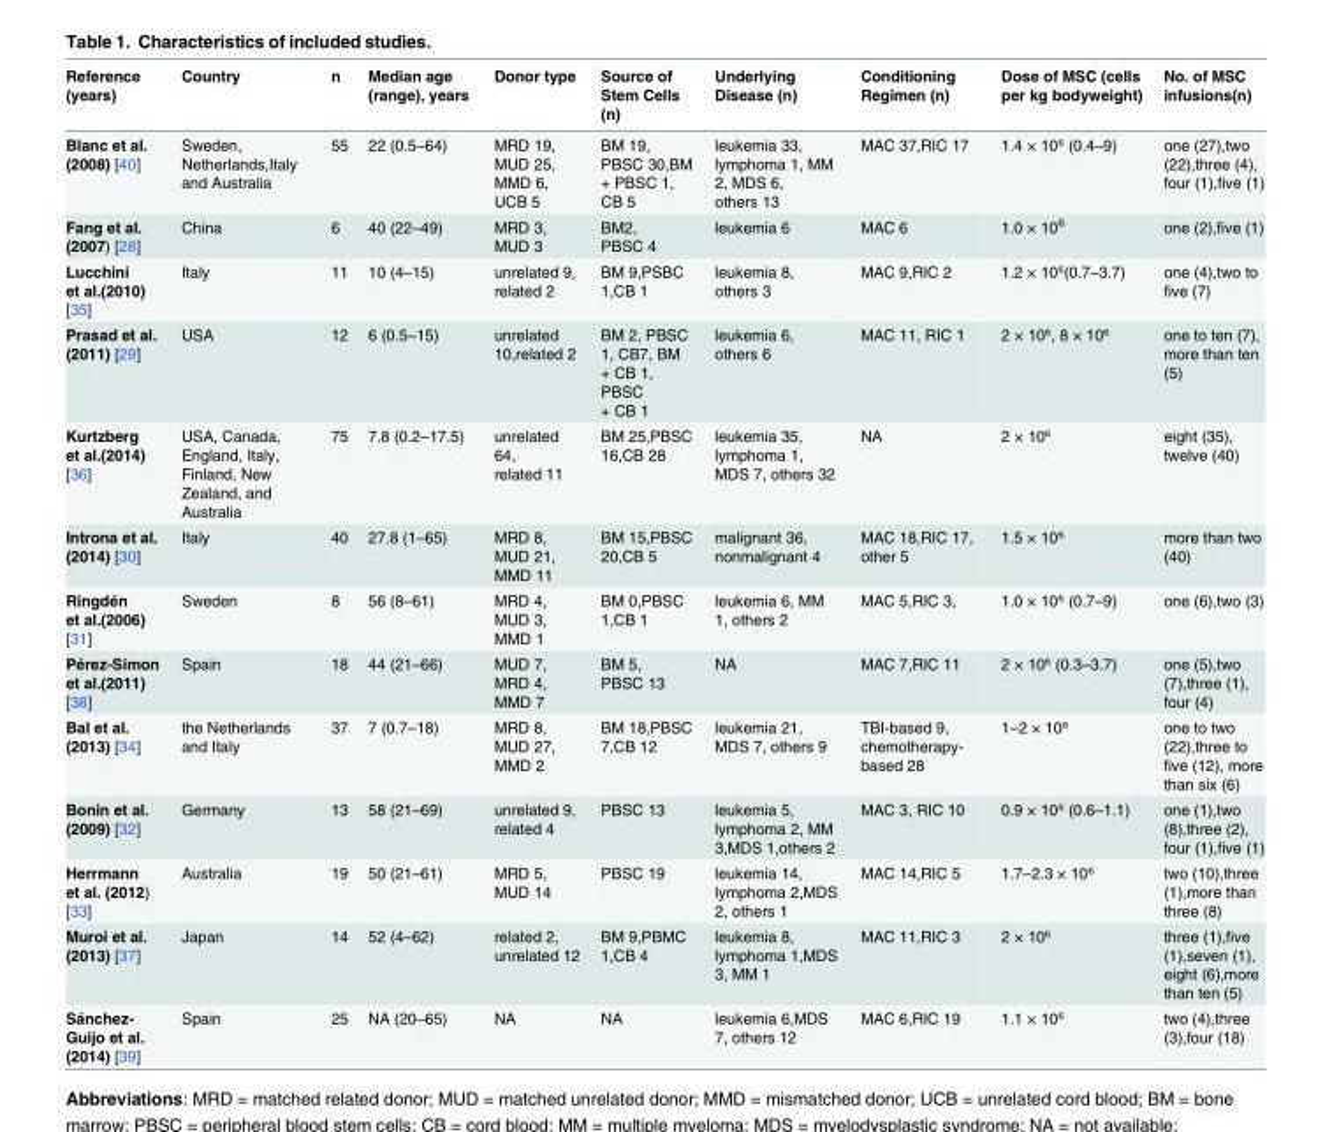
<table><thead><tr><td>Reference (years)</td><td>Country</td><td>n</td><td>Median age (range), years</td><td>Donor type</td><td>Source of Stem Cells (n)</td><td>Underlying Disease (n)</td><td>Conditioning Regimen (n)</td><td>Dose of MSC (cells per kg bodyweight)</td><td>No. of MSC infusions(n)</td></tr></thead><tbody><tr><td>Blanc et al. (2008) [40]</td><td>Sweden, Netherlands,Italy and Australia</td><td>55</td><td>22 (0.5–64)</td><td>MRD 19, MUD 25, MMD 6, UCB 5</td><td>BM 19, PBSC 30,BM + PBSC 1, CB 5</td><td>leukemia 33, lymphoma 1, MM 2, MDS 6, others 13</td><td>MAC 37,RIC 17</td><td>1.4 × 10⁶ (0.4–9)</td><td>one (27),two (22),three (4), four (1),five (1)</td></tr><tr><td>Fang et al. (2007) [28]</td><td>China</td><td>6</td><td>40 (22–49)</td><td>MRD 3, MUD 3</td><td>BM2, PBSC 4</td><td>leukemia 6</td><td>MAC 6</td><td>1.0 × 10<sup>6</sup></td><td>one (2),five (1)</td></tr><tr><td>Lucchini et al.(2010) [35]</td><td>Italy</td><td>11</td><td>10 (4–15)</td><td>unrelated 9, related 2</td><td>BM 9,PSBC 1,CB 1</td><td>leukemia 8, others 3</td><td>MAC 9,RIC 2</td><td>1.2 × 10⁶(0.7–3.7)</td><td>one (4),two to five (7)</td></tr><tr><td>Prasad et al. (2011) [29]</td><td>USA</td><td>12</td><td>6 (0.5–15)</td><td>unrelated 10,related 2</td><td>BM 2, PBSC 1, CB7, BM + CB 1, PBSC + CB 1</td><td>leukemia 6, others 6</td><td>MAC 11, RIC 1</td><td>2 × 10⁶, 8 × 10⁶</td><td>one to ten (7), more than ten (5)</td></tr><tr><td>Kurtzberg et al.(2014) [36]</td><td>USA, Canada, England, Italy, Finland, New Zealand, and Australia</td><td>75</td><td>7.8 (0.2–17.5)</td><td>unrelated 64, related 11</td><td>BM 25,PBSC 16,CB 28</td><td>leukemia 35, lymphoma 1, MDS 7, others 32</td><td>NA</td><td>2 × 10⁶</td><td>eight (35), twelve (40)</td></tr><tr><td>Introna et al. (2014) [30]</td><td>Italy</td><td>40</td><td>27.8 (1–65)</td><td>MRD 8, MUD 21, MMD 11</td><td>BM 15,PBSC 20,CB 5</td><td>malignant 36, nonmalignant 4</td><td>MAC 18,RIC 17, other 5</td><td>1.5 × 10⁶</td><td>more than two (40)</td></tr><tr><td>Ringdén et al.(2006) [31]</td><td>Sweden</td><td>8</td><td>56 (8–61)</td><td>MRD 4, MUD 3, MMD 1</td><td>BM 0,PBSC 1,CB 1</td><td>leukemia 6, MM 1, others 2</td><td>MAC 5,RIC 3,</td><td>1.0 × 10⁶ (0.7–9)</td><td>one (6),two (3)</td></tr><tr><td>Pérez-Simon et al.(2011) [38]</td><td>Spain</td><td>18</td><td>44 (21–66)</td><td>MUD 7, MRD 4, MMD 7</td><td>BM 5, PBSC 13</td><td>NA</td><td>MAC 7,RIC 11</td><td>2 × 10⁶ (0.3–3.7)</td><td>one (5),two (7),three (1), four (4)</td></tr><tr><td>Bal et al. (2013) [34]</td><td>the Netherlands and Italy</td><td>37</td><td>7 (0.7–18)</td><td>MRD 8, MUD 27, MMD 2</td><td>BM 18,PBSC 7,CB 12</td><td>leukemia 21, MDS 7, others 9</td><td>TBI-based 9, chemotherapy- based 28</td><td>1–2 × 10⁶</td><td>one to two (22),three to five (12), more than six (6)</td></tr><tr><td>Bonin et al. (2009) [32]</td><td>Germany</td><td>13</td><td>58 (21–69)</td><td>unrelated 9, related 4</td><td>PBSC 13</td><td>leukemia 5, lymphoma 2, MM 3,MDS 1,others 2</td><td>MAC 3, RIC 10</td><td>0.9 × 10⁶ (0.6–1.1)</td><td>one (1),two (8),three (2), four (1),five (1)</td></tr><tr><td>Herrmann et al. (2012) [33]</td><td>Australia</td><td>19</td><td>50 (21–61)</td><td>MRD 5, MUD 14</td><td>PBSC 19</td><td>leukemia 14, lymphoma 2,MDS 2, others 1</td><td>MAC 14,RIC 5</td><td>1.7–2.3 × 10⁶</td><td>two (10),three (1),more than three (8)</td></tr><tr><td>Muroi et al. (2013) [37]</td><td>Japan</td><td>14</td><td>52 (4–62)</td><td>related 2, unrelated 12</td><td>BM 9,PBMC 1,CB 4</td><td>leukemia 8, lymphoma 1,MDS 3, MM 1</td><td>MAC 11,RIC 3</td><td>2 × 10⁶</td><td>three (1),five (1),seven (1), eight (6),more than ten (5)</td></tr><tr><td>Sánchez- Guijo et al. (2014) [39]</td><td>Spain</td><td>25</td><td>NA (20–65)</td><td>NA</td><td>NA</td><td>leukemia 6,MDS 7, others 12</td><td>MAC 6,RIC 19</td><td>1.1 × 10⁶</td><td>two (4),three (3),four (18)</td></tr></tbody></table>